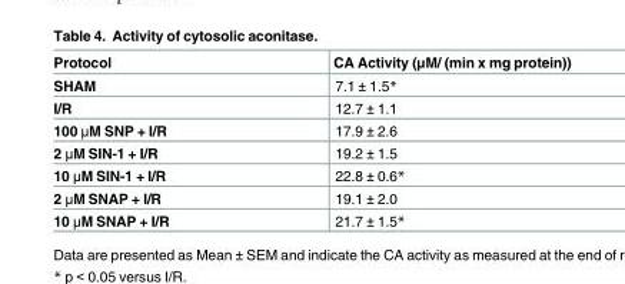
<table><thead><tr><td>Protocol</td><td>CA Activity (μM/ (min x mg protein))</td></tr></thead><tbody><tr><td>SHAM</td><td>7.1 ± 1.5*</td></tr><tr><td>I/R</td><td>12.7 ± 1.1</td></tr><tr><td>100 μM SNP + I/R</td><td>17.9 ± 2.6</td></tr><tr><td>2 μM SIN-1 + I/R</td><td>19.2 ± 1.5</td></tr><tr><td>10 μM SIN-1 + I/R</td><td>22.8 ± 0.6*</td></tr><tr><td>2 μM SNAP + I/R</td><td>19.1 ± 2.0</td></tr><tr><td>10 μM SNAP + I/R</td><td>21.7 ± 1.5*</td></tr></tbody></table>